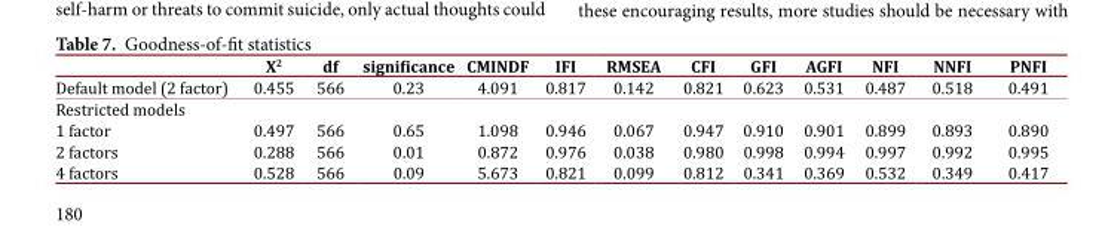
<table><thead><tr><td></td><td>X<sup>2</sup></td><td>df</td><td>significance</td><td>CMINDF</td><td>IFI</td><td>RMSEA</td><td>CFI</td><td>GFI</td><td>AGFI</td><td>NFI</td><td>NNFI</td><td>PNFI</td></tr></thead><tbody><tr><td>Default model (2 factor)</td><td>0.455</td><td>566</td><td>0.23</td><td>4.091</td><td>0.817</td><td>0.142</td><td>0.821</td><td>0.623</td><td>0.531</td><td>0.487</td><td>0.518</td><td>0.491</td></tr><tr><td colspan="13">Restricted models</td></tr><tr><td>1 factor</td><td>0.497</td><td>566</td><td>0.65</td><td>1.098</td><td>0.946</td><td>0.067</td><td>0.947</td><td>0.910</td><td>0.901</td><td>0.899</td><td>0.893</td><td>0.890</td></tr><tr><td>2 factors</td><td>0.288</td><td>566</td><td>0.01</td><td>0.872</td><td>0.976</td><td>0.038</td><td>0.980</td><td>0.998</td><td>0.994</td><td>0.997</td><td>0.992</td><td>0.995</td></tr><tr><td>4 factors</td><td>0.528</td><td>566</td><td>0.09</td><td>5.673</td><td>0.821</td><td>0.099</td><td>0.812</td><td>0.341</td><td>0.369</td><td>0.532</td><td>0.349</td><td>0.417</td></tr></tbody></table>